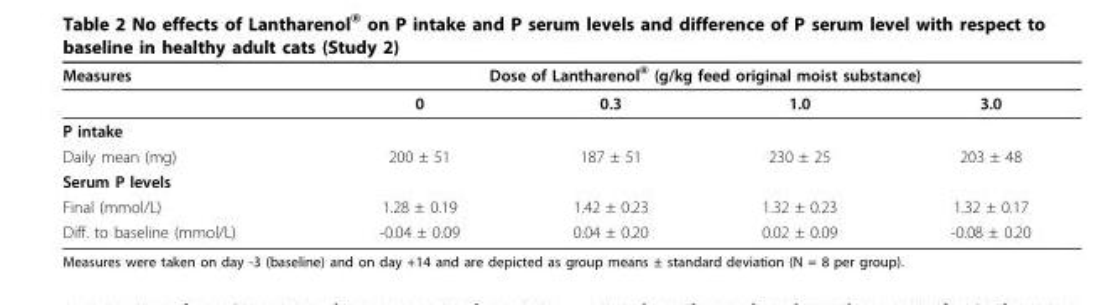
<table><thead><tr><td rowspan="2">Measures</td><td colspan="4">Dose of Lantharenol<sup>®</sup> (g/kg feed original moist substance)</td></tr><tr><td>0</td><td>0.3</td><td>1.0</td><td>3.0</td></tr></thead><tbody><tr><td colspan="5">P intake</td></tr><tr><td>Daily mean (mg)</td><td>200 ± 51</td><td>187 ± 51</td><td>230 ± 25</td><td>203 ± 48</td></tr><tr><td colspan="5">Serum P levels</td></tr><tr><td>Final (mmol/L)</td><td>1.28 ± 0.19</td><td>1.42 ± 0.23</td><td>1.32 ± 0.23</td><td>1.32 ± 0.17</td></tr><tr><td>Diff. to baseline (mmol/L)</td><td>-0.04 ± 0.09</td><td>0.04 ± 0.20</td><td>0.02 ± 0.09</td><td>-0.08 ± 0.20</td></tr></tbody></table>